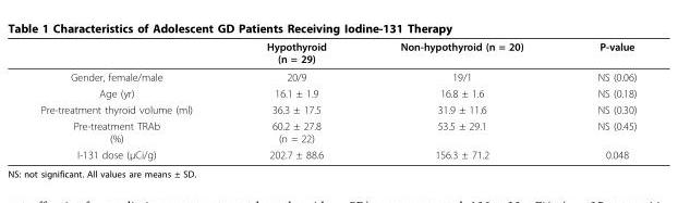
<table><thead><tr><td></td><td>Hypothyroid (n = 29)</td><td>Non-hypothyroid (n = 20)</td><td>P-value</td></tr></thead><tbody><tr><td>Gender, female/male</td><td>20/9</td><td>19/1</td><td>NS (0.06)</td></tr><tr><td>Age (yr)</td><td>16.1 ± 1.9</td><td>16.8 ± 1.6</td><td>NS (0.18)</td></tr><tr><td>Pre-treatment thyroid volume (ml)</td><td>36.3 ± 17.5</td><td>31.9 ± 11.6</td><td>NS (0.30)</td></tr><tr><td>Pre-treatment TRAb (%)</td><td>60.2 ± 27.8 (n = 22)</td><td>53.5 ± 29.1</td><td>NS (0.45)</td></tr><tr><td>I-131 dose (μCi/g)</td><td>202.7 ± 88.6</td><td>156.3 ± 71.2</td><td>0.048</td></tr></tbody></table>